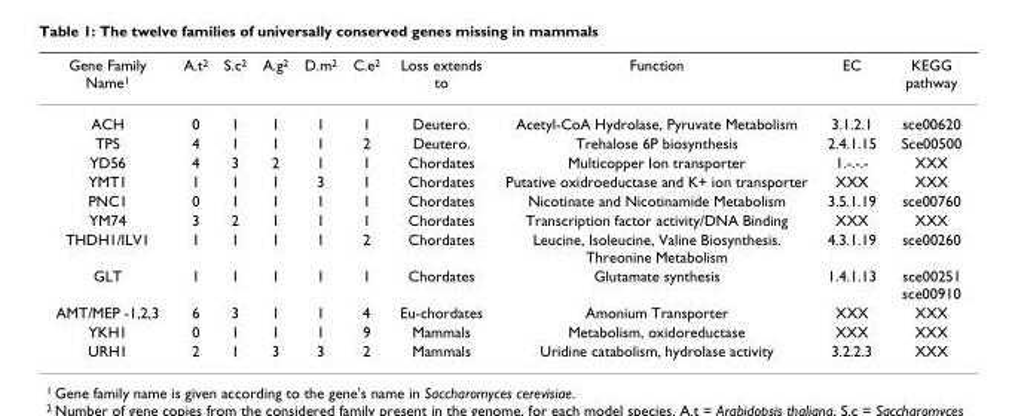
<table><thead><tr><td>Gene Family Name<sup>1</sup></td><td>A.t<sup>2</sup></td><td>S.c<sup>2</sup></td><td>A.g<sup>2</sup></td><td>D.m<sup>2</sup></td><td>C.e<sup>2</sup></td><td>Loss extends to</td><td>Function</td><td>EC</td><td>KEGG pathway</td></tr></thead><tbody><tr><td>ACH</td><td>0</td><td>1</td><td>1</td><td>1</td><td>1</td><td>Deutero.</td><td>Acetyl-CoA Hydrolase, Pyruvate Metabolism</td><td>3.1.2.1</td><td>sce00620</td></tr><tr><td>TPS</td><td>4</td><td>1</td><td>1</td><td>1</td><td>2</td><td>Deutero.</td><td>Trehalose 6P biosynthesis</td><td>2.4.1.15</td><td>Sce00500</td></tr><tr><td>YD56</td><td>4</td><td>3</td><td>2</td><td>1</td><td>1</td><td>Chordates</td><td>Multicopper Ion transporter</td><td>1.-.-.-</td><td>XXX</td></tr><tr><td>YMT1</td><td>1</td><td>1</td><td>1</td><td>3</td><td>1</td><td>Chordates</td><td>Putative oxidroeductase and K+ ion transporter</td><td>XXX</td><td>XXX</td></tr><tr><td>PNC1</td><td>0</td><td>1</td><td>1</td><td>1</td><td>1</td><td>Chordates</td><td>Nicotinate and Nicotinamide Metabolism</td><td>3.5.1.19</td><td>sce00760</td></tr><tr><td>YM74</td><td>3</td><td>2</td><td>1</td><td>1</td><td>1</td><td>Chordates</td><td>Transcription factor activity/DNA Binding</td><td>XXX</td><td>XXX</td></tr><tr><td>THDH1/ILV1</td><td>1</td><td>1</td><td>1</td><td>1</td><td>2</td><td>Chordates</td><td>Leucine, Isoleucine, Valine Biosynthesis. Threonine Metabolism</td><td>4.3.1.19</td><td>sce00260</td></tr><tr><td>GLT</td><td>1</td><td>1</td><td>1</td><td>1</td><td>1</td><td>Chordates</td><td>Glutamate synthesis</td><td>1.4.1.13</td><td>sce00251 sce00910</td></tr><tr><td>AMT/MEP -1,2,3</td><td>6</td><td>3</td><td>1</td><td>1</td><td>4</td><td>Eu-chordates</td><td>Amonium Transporter</td><td>XXX</td><td>XXX</td></tr><tr><td>YKH1</td><td>0</td><td>1</td><td>1</td><td>1</td><td>9</td><td>Mammals</td><td>Metabolism, oxidoreductase</td><td>XXX</td><td>XXX</td></tr><tr><td>URH1</td><td>2</td><td>1</td><td>3</td><td>3</td><td>2</td><td>Mammals</td><td>Uridine catabolism, hydrolase activity</td><td>3.2.2.3</td><td>XXX</td></tr></tbody></table>